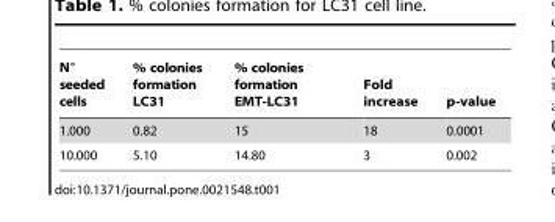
<table><thead><tr><td>N° seeded cells</td><td>% colonies formation LC31</td><td>% colonies formation EMT-LC31</td><td>Fold increase</td><td>p-value</td></tr></thead><tbody><tr><td>1.000</td><td>0.82</td><td>15</td><td>18</td><td>0.0001</td></tr><tr><td>10.000</td><td>5.10</td><td>14.80</td><td>3</td><td>0.002</td></tr></tbody></table>